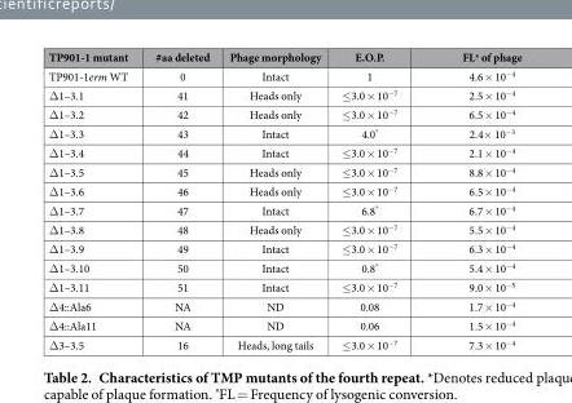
<table><thead><tr><td>TP901-1 mutant</td><td>#aa deleted</td><td>Phage morphology</td><td>E.O.P.</td><td>FLᴥ of phage</td></tr></thead><tbody><tr><td>TP901-1erm WT</td><td>0</td><td>Intact</td><td>1</td><td>4.6 × 10<sup>−4</sup></td></tr><tr><td>Δ 1–3.1</td><td>41</td><td>Heads only</td><td>≤ 3.0 × 10<sup>−7</sup></td><td>2.5 × 10<sup>−4</sup></td></tr><tr><td>Δ 1–3.2</td><td>42</td><td>Heads only</td><td>≤ 3.0 × 10<sup>−7</sup></td><td>6.5 × 10<sup>−4</sup></td></tr><tr><td>Δ 1–3.3</td><td>43</td><td>Intact</td><td>4.0*</td><td>2.4× 10<sup>−3</sup></td></tr><tr><td>Δ 1–3.4</td><td>44</td><td>Intact</td><td>≤ 3.0 × 10<sup>−7</sup></td><td>2.1 × 10<sup>−4</sup></td></tr><tr><td>Δ 1–3.5</td><td>45</td><td>Heads only</td><td>≤ 3.0 × 10<sup>−7</sup></td><td>8.8 × 10<sup>−4</sup></td></tr><tr><td>Δ 1–3.6</td><td>46</td><td>Heads only</td><td>≤ 3.0 × 10<sup>−7</sup></td><td>6.5 × 10<sup>−4</sup></td></tr><tr><td>Δ 1–3.7</td><td>47</td><td>Intact</td><td>6.8*</td><td>6.7 × 10<sup>−4</sup></td></tr><tr><td>Δ 1–3.8</td><td>48</td><td>Heads only</td><td>≤ 3.0 × 10<sup>−7</sup></td><td>5.5 × 10<sup>−4</sup></td></tr><tr><td>Δ 1–3.9</td><td>49</td><td>Intact</td><td>≤ 3.0 × 10<sup>−7</sup></td><td>6.3 × 10<sup>−4</sup></td></tr><tr><td>Δ 1–3.10</td><td>50</td><td>Intact</td><td>0.8*</td><td>5.4 × 10<sup>−4</sup></td></tr><tr><td>Δ 1–3.11</td><td>51</td><td>Intact</td><td>≤ 3.0 × 10<sup>−7</sup></td><td>9.0 × 10<sup>−5</sup></td></tr><tr><td>Δ 4::Ala6</td><td>NA</td><td>ND</td><td>0.08</td><td>1.7 × 10<sup>−4</sup></td></tr><tr><td>Δ 4::Ala11</td><td>NA</td><td>ND</td><td>0.06</td><td>1.5 × 10<sup>−4</sup></td></tr><tr><td>Δ 3–3.5</td><td>16</td><td>Heads, long tails</td><td>≤ 3.0 × 10<sup>−7</sup></td><td>7.3 × 10<sup>−4</sup></td></tr></tbody></table>